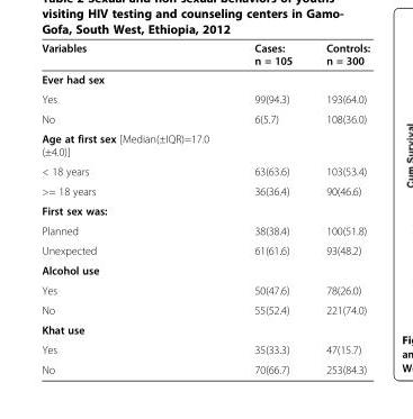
<table><thead><tr><td>Variables</td><td>Cases: n = 105</td><td>Controls: n = 300</td></tr></thead><tbody><tr><td colspan="3">Ever had sex</td></tr><tr><td>Yes</td><td>99(94.3)</td><td>193(64.0)</td></tr><tr><td>No</td><td>6(5.7)</td><td>108(36.0)</td></tr><tr><td colspan="3">Age at first sex [Median(±IQR)=17.0 (±4.0)]</td></tr><tr><td>&lt; 18 years</td><td>63(63.6)</td><td>103(53.4)</td></tr><tr><td>&gt;= 18 years</td><td>36(36.4)</td><td>90(46.6)</td></tr><tr><td colspan="3">First sex was:</td></tr><tr><td>Planned</td><td>38(38.4)</td><td>100(51.8)</td></tr><tr><td>Unexpected</td><td>61(61.6)</td><td>93(48.2)</td></tr><tr><td colspan="3">Alcohol use</td></tr><tr><td>Yes</td><td>50(47.6)</td><td>78(26.0)</td></tr><tr><td>No</td><td>55(52.4)</td><td>221(74.0)</td></tr><tr><td colspan="3">Khat use</td></tr><tr><td>Yes</td><td>35(33.3)</td><td>47(15.7)</td></tr><tr><td>No</td><td>70(66.7)</td><td>253(84.3)</td></tr></tbody></table>